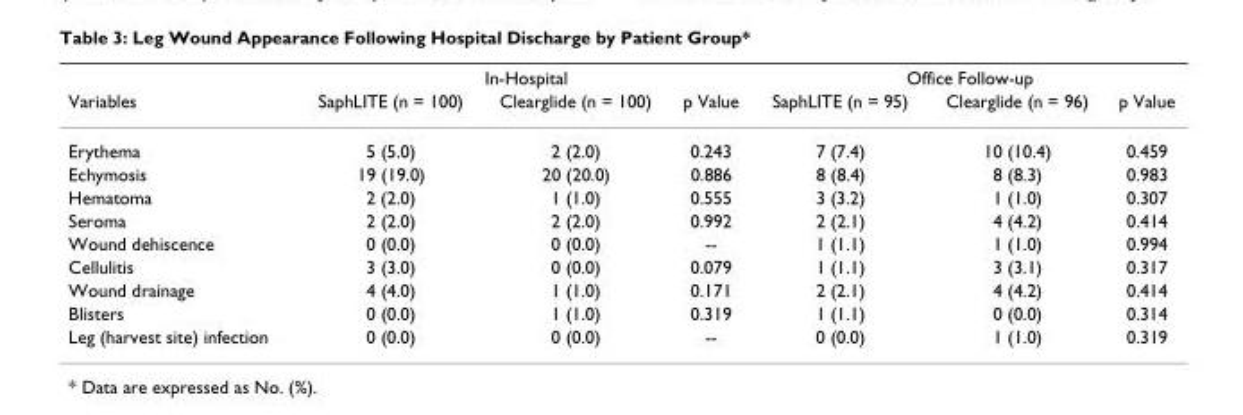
<table><thead><tr><td rowspan="2">Variables</td><td colspan="3">In-Hospital</td><td colspan="3">Office Follow-up</td></tr><tr><td>SaphLITE (n = 100)</td><td>Clearglide (n = 100)</td><td>p Value</td><td>SaphLITE (n = 95)</td><td>Clearglide (n = 96)</td><td>p Value</td></tr></thead><tbody><tr><td>Erythema</td><td>5 (5.0)</td><td>2 (2.0)</td><td>0.243</td><td>7 (7.4)</td><td>10 (10.4)</td><td>0.459</td></tr><tr><td>Echymosis</td><td>19 (19.0)</td><td>20 (20.0)</td><td>0.886</td><td>8 (8.4)</td><td>8 (8.3)</td><td>0.983</td></tr><tr><td>Hematoma</td><td>2 (2.0)</td><td>1 (1.0)</td><td>0.555</td><td>3 (3.2)</td><td>1 (1.0)</td><td>0.307</td></tr><tr><td>Seroma</td><td>2 (2.0)</td><td>2 (2.0)</td><td>0.992</td><td>2 (2.1)</td><td>4 (4.2)</td><td>0.414</td></tr><tr><td>Wound dehiscence</td><td>0 (0.0)</td><td>0 (0.0)</td><td>--</td><td>1 (1.1)</td><td>1 (1.0)</td><td>0.994</td></tr><tr><td>Cellulitis</td><td>3 (3.0)</td><td>0 (0.0)</td><td>0.079</td><td>1 (1.1)</td><td>3 (3.1)</td><td>0.317</td></tr><tr><td>Wound drainage</td><td>4 (4.0)</td><td>1 (1.0)</td><td>0.171</td><td>2 (2.1)</td><td>4 (4.2)</td><td>0.414</td></tr><tr><td>Blisters</td><td>0 (0.0)</td><td>1 (1.0)</td><td>0.319</td><td>1 (1.1)</td><td>0 (0.0)</td><td>0.314</td></tr><tr><td>Leg (harvest site) infection</td><td>0 (0.0)</td><td>0 (0.0)</td><td>--</td><td>0 (0.0)</td><td>1 (1.0)</td><td>0.319</td></tr></tbody></table>